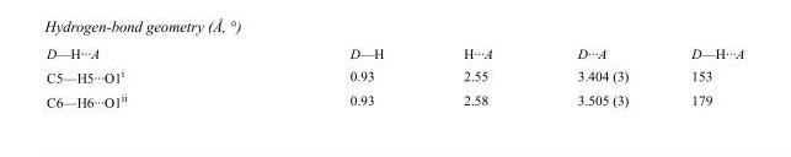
<table><tbody><tr><td>D—H···A</td><td>D—H</td><td>H···A</td><td>D···A</td><td>D—H···A</td></tr><tr><td>C5—H5···O1<sup>i</sup></td><td>0.93</td><td>2.55</td><td>3.404 (3)</td><td>153</td></tr><tr><td>C6—H6···O1<sup>ii</sup></td><td>0.93</td><td>2.58</td><td>3.505 (3)</td><td>179</td></tr></tbody></table>